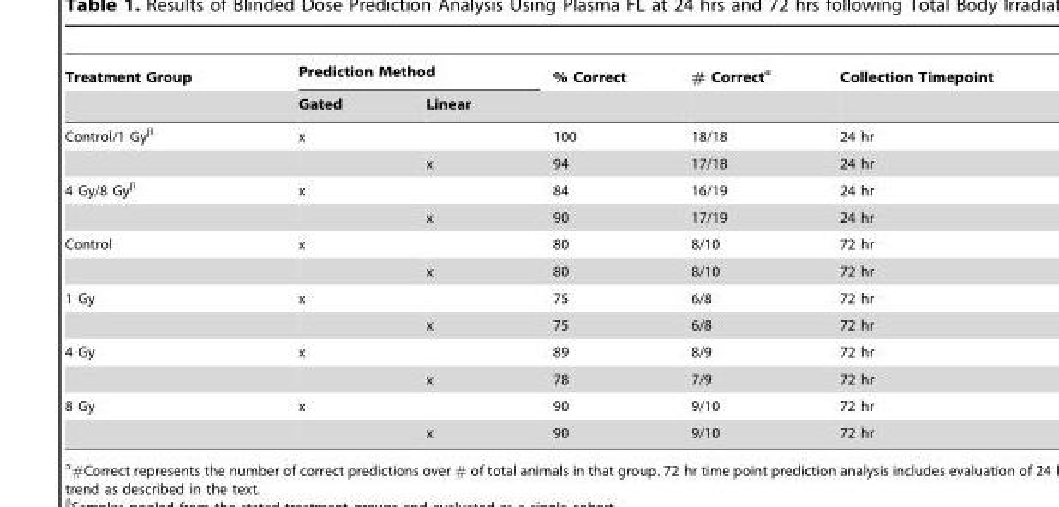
<table><thead><tr><td rowspan="2">Treatment Group</td><td colspan="2">Prediction Method</td><td rowspan="2">% Correct</td><td rowspan="2"># Correctα</td><td rowspan="2">Collection Timepoint</td></tr><tr><td>Gated</td><td>Linear</td></tr></thead><tbody><tr><td rowspan="2">Control/1 Gyβ</td><td>x</td><td></td><td>100</td><td>18/18</td><td>24 hr</td></tr><tr><td></td><td>x</td><td>94</td><td>17/18</td><td>24 hr</td></tr><tr><td rowspan="2">4 Gy/8 Gyβ</td><td>x</td><td></td><td>84</td><td>16/19</td><td>24 hr</td></tr><tr><td></td><td>x</td><td>90</td><td>17/19</td><td>24 hr</td></tr><tr><td rowspan="2">Control</td><td>x</td><td></td><td>80</td><td>8/10</td><td>72 hr</td></tr><tr><td></td><td>x</td><td>80</td><td>8/10</td><td>72 hr</td></tr><tr><td rowspan="2">1 Gy</td><td>x</td><td></td><td>75</td><td>6/8</td><td>72 hr</td></tr><tr><td></td><td>x</td><td>75</td><td>6/8</td><td>72 hr</td></tr><tr><td rowspan="2">4 Gy</td><td>x</td><td></td><td>89</td><td>8/9</td><td>72 hr</td></tr><tr><td></td><td>x</td><td>78</td><td>7/9</td><td>72 hr</td></tr><tr><td rowspan="2">8 Gy</td><td>x</td><td></td><td>90</td><td>9/10</td><td>72 hr</td></tr><tr><td></td><td>x</td><td>90</td><td>9/10</td><td>72 hr</td></tr></tbody></table>